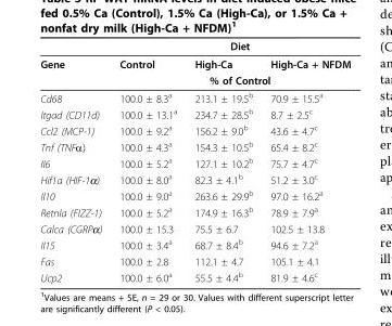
<table><thead><tr><td rowspan="2">Gene</td><td colspan="3">Diet</td></tr><tr><td>Control</td><td>High-Ca</td><td>High-Ca + NFDM</td></tr></thead><tbody><tr><td></td><td colspan="3">% of Control</td></tr><tr><td>Cd68</td><td>100.0 ± 8.3<sup>a</sup></td><td>213.1 ± 19.5<sup>b</sup></td><td>70.9 ± 15.5<sup>a</sup></td></tr><tr><td>Itgad (CD11d)</td><td>100.0 ± 13.1<sup>a</sup></td><td>234.7 ± 28.5<sup>b</sup></td><td>8.7 ± 2.5<sup>c</sup></td></tr><tr><td>Ccl2 (MCP-1)</td><td>100.0 ± 9.2<sup>a</sup></td><td>156.2 ± 9.0<sup>b</sup></td><td>43.6 ± 4.7<sup>c</sup></td></tr><tr><td>Tnf (TNFα)</td><td>100.0 ± 4.3<sup>a</sup></td><td>154.3 ± 10.5<sup>b</sup></td><td>65.4 ± 8.2<sup>c</sup></td></tr><tr><td>Il6</td><td>100.0 ± 5.2<sup>a</sup></td><td>127.1 ± 10.2<sup>b</sup></td><td>75.7 ± 4.7<sup>c</sup></td></tr><tr><td>Hif1a (HIF-1α)</td><td>100.0 ± 8.0<sup>a</sup></td><td>82.3 ± 4.1<sup>b</sup></td><td>51.2 ± 3.0<sup>c</sup></td></tr><tr><td>Il10</td><td>100.0 ± 9.0<sup>a</sup></td><td>263.6 ± 29.9<sup>b</sup></td><td>97.0 ± 16.2<sup>a</sup></td></tr><tr><td>Retnla (FIZZ-1)</td><td>100.0 ± 5.2<sup>a</sup></td><td>174.9 ± 16.3<sup>b</sup></td><td>78.9 ± 7.9<sup>a</sup></td></tr><tr><td>Calca (CGRPα)</td><td>100.0 ± 15.3</td><td>75.5 ± 6.7</td><td>102.5 ± 13.8</td></tr><tr><td>Il15</td><td>100.0 ± 3.4<sup>a</sup></td><td>68.7 ± 8.4<sup>b</sup></td><td>94.6 ± 7.2<sup>a</sup></td></tr><tr><td>Fas</td><td>100.0 ± 2.8</td><td>112.1 ± 4.7</td><td>105.1 ± 4.1</td></tr><tr><td>Ucp2</td><td>100.0 ± 6.0<sup>a</sup></td><td>55.5 ± 4.4<sup>b</sup></td><td>81.9 ± 4.6<sup>c</sup></td></tr></tbody></table>